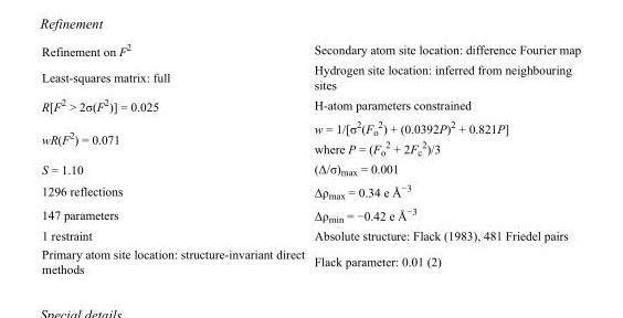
<table><tbody><tr><td>Refinement on F<sup>2</sup></td><td>Secondary atom site location: difference Fourier map</td></tr><tr><td>Least-squares matrix: full</td><td>Hydrogen site location: inferred from neighbouring sites</td></tr><tr><td>R[F<sup>2</sup> &gt; 2σ(F<sup>2</sup>)] = 0.025</td><td>H-atom parameters constrained</td></tr><tr><td>wR(F<sup>2</sup>) = 0.071</td><td>w = 1/[σ<sup>2</sup>(F<sub>o</sub> <sup>2</sup>) + (0.0392P)<sup>2</sup> + 0.821P] where P = (F<sub>o</sub> <sup>2</sup> + 2F<sub>c</sub> <sup>2</sup>)/3</td></tr><tr><td>S = 1.10</td><td>(Δ/σ)<sub>max</sub> = 0.001</td></tr><tr><td>1296 reflections</td><td>Δρ<sub>max</sub> = 0.34 e Å<sup>−3</sup></td></tr><tr><td>147 parameters</td><td>Δρ<sub>min</sub> = −0.42 e Å<sup>−3</sup></td></tr><tr><td>1 restraint</td><td>Absolute structure: Flack (1983), 481 Friedel pairs</td></tr><tr><td>Primary atom site location: structure-invariant direct methods</td><td>Flack parameter: 0.01 (2)</td></tr></tbody></table>